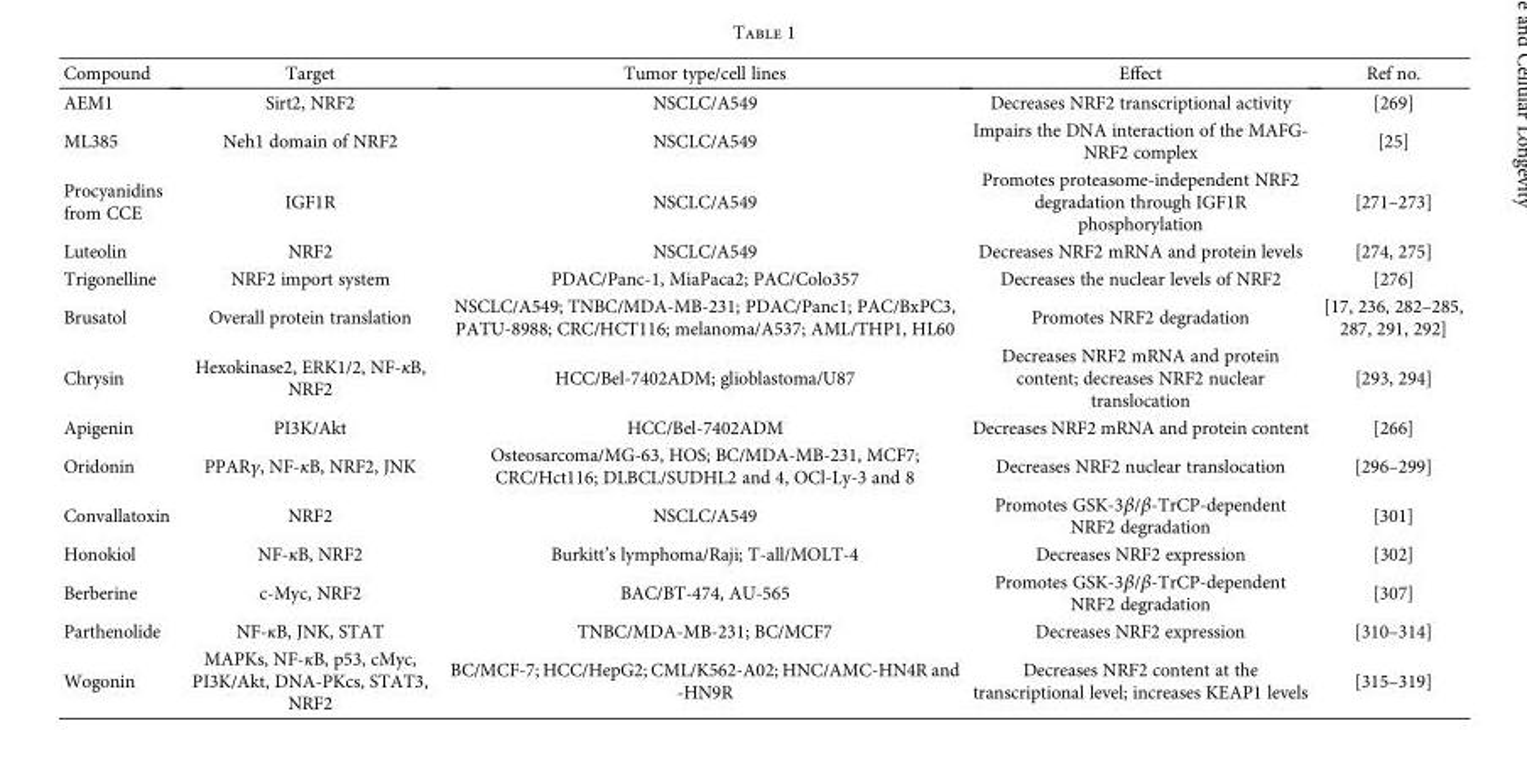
<table><thead><tr><td>Compound</td><td>Target</td><td>Tumor type/cell lines</td><td>Effect</td><td>Ref no.</td></tr></thead><tbody><tr><td>AEM1</td><td>Sirt2, NRF2</td><td>NSCLC/A549</td><td>Decreases NRF2 transcriptional activity</td><td>[269]</td></tr><tr><td>ML385</td><td>Neh1 domain of NRF2</td><td>NSCLC/A549</td><td>Impairs the DNA interaction of the MAFG- NRF2 complex</td><td>[25]</td></tr><tr><td>Procyanidins from CCE</td><td>IGF1R</td><td>NSCLC/A549</td><td>Promotes proteasome-independent NRF2 degradation through IGF1R phosphorylation</td><td>[271–273]</td></tr><tr><td>Luteolin</td><td>NRF2</td><td>NSCLC/A549</td><td>Decreases NRF2 mRNA and protein levels</td><td>[274, 275]</td></tr><tr><td>Trigonelline</td><td>NRF2 import system</td><td>PDAC/Panc-1, MiaPaca2; PAC/Colo357</td><td>Decreases the nuclear levels of NRF2</td><td>[276]</td></tr><tr><td>Brusatol</td><td>Overall protein translation</td><td>NSCLC/A549; TNBC/MDA-MB-231; PDAC/Panc1; PAC/BxPC3, PATU-8988; CRC/HCT116; melanoma/A537; AML/THP1, HL60</td><td>Promotes NRF2 degradation</td><td>[17, 236, 282–285, 287, 291, 292]</td></tr><tr><td>Chrysin</td><td>Hexokinase2, ERK1/2, NF-κB, NRF2</td><td>HCC/Bel-7402ADM; glioblastoma/U87</td><td>Decreases NRF2 mRNA and protein content; decreases NRF2 nuclear translocation</td><td>[293, 294]</td></tr><tr><td>Apigenin</td><td>PI3K/Akt</td><td>HCC/Bel-7402ADM</td><td>Decreases NRF2 mRNA and protein content</td><td>[266]</td></tr><tr><td>Oridonin</td><td>PPARγ, NF-κB, NRF2, JNK</td><td>Osteosarcoma/MG-63, HOS; BC/MDA-MB-231, MCF7; CRC/Hct116; DLBCL/SUDHL2 and 4, OCl-Ly-3 and 8</td><td>Decreases NRF2 nuclear translocation</td><td>[296–299]</td></tr><tr><td>Convallatoxin</td><td>NRF2</td><td>NSCLC/A549</td><td>Promotes GSK-3β/β-TrCP-dependent NRF2 degradation</td><td>[301]</td></tr><tr><td>Honokiol</td><td>NF-κB, NRF2</td><td>Burkitt’s lymphoma/Raji; T-all/MOLT-4</td><td>Decreases NRF2 expression</td><td>[302]</td></tr><tr><td>Berberine</td><td>c-Myc, NRF2</td><td>BAC/BT-474, AU-565</td><td>Promotes GSK-3β/β-TrCP-dependent NRF2 degradation</td><td>[307]</td></tr><tr><td>Parthenolide</td><td>NF-κB, JNK, STAT</td><td>TNBC/MDA-MB-231; BC/MCF7</td><td>Decreases NRF2 expression</td><td>[310–314]</td></tr><tr><td>Wogonin</td><td>MAPKs, NF-κB, p53, cMyc, PI3K/Akt, DNA-PKcs, STAT3, NRF2</td><td>BC/MCF-7; HCC/HepG2; CML/K562-A02; HNC/AMC-HN4R and -HN9R</td><td>Decreases NRF2 content at the transcriptional level; increases KEAP1 levels</td><td>[315–319]</td></tr></tbody></table>